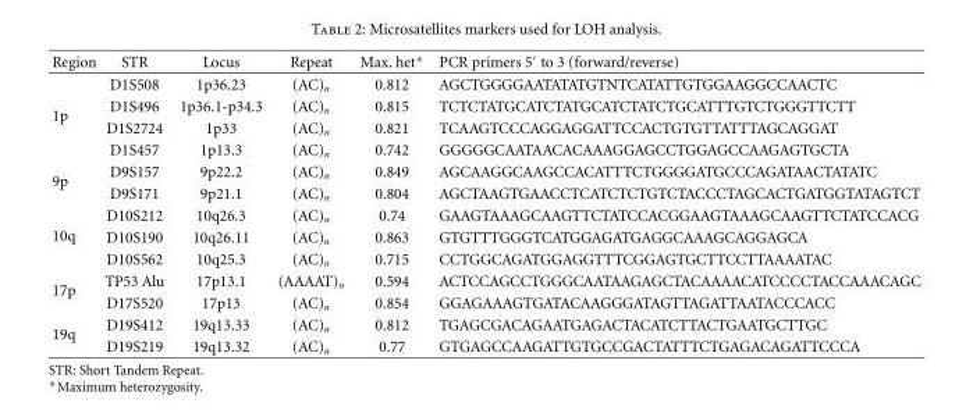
<table><thead><tr><td>Region</td><td>STR</td><td>Locus</td><td>Repeat</td><td>Max. het∗</td><td>PCR primers 5′ to 3 (forward/reverse)</td></tr></thead><tbody><tr><td rowspan="4">1p</td><td>D1S508</td><td>1p36.23</td><td>(AC)n</td><td>0.812</td><td>AGCTGGGGAATATATGTNTCATATTGTGGAAGGCCAACTC</td></tr><tr><td>D1S496</td><td>1p36.1-p34.3</td><td>(AC)n</td><td>0.815</td><td>TCTCTATGCATCTATGCATCTATCTGCATTTGTCTGGGTTCTT</td></tr><tr><td>D1S2724</td><td>1p33</td><td>(AC)n</td><td>0.821</td><td>TCAAGTCCCAGGAGGATTCCACTGTGTTATTTAGCAGGAT</td></tr><tr><td>D1S457</td><td>1p13.3</td><td>(AC)n</td><td>0.742</td><td>GGGGGCAATAACACAAAGGAGCCTGGAGCCAAGAGTGCTA</td></tr><tr><td rowspan="2">9p</td><td>D9S157</td><td>9p22.2</td><td>(AC)n</td><td>0.849</td><td>AGCAAGGCAAGCCACATTTCTGGGGATGCCCAGATAACTATATC</td></tr><tr><td>D9S171</td><td>9p21.1</td><td>(AC)n</td><td>0.804</td><td>AGCTAAGTGAACCTCATCTCTGTCTACCCTAGCACTGATGGTATAGTCT</td></tr><tr><td rowspan="3">10q</td><td>D10S212</td><td>10q26.3</td><td>(AC)n</td><td>0.74</td><td>GAAGTAAAGCAAGTTCTATCCACGGAAGTAAAGCAAGTTCTATCCACG</td></tr><tr><td>D10S190</td><td>10q26.11</td><td>(AC)n</td><td>0.863</td><td>GTGTTTGGGTCATGGAGATGAGGCAAAGCAGGAGCA</td></tr><tr><td>D10S562</td><td>10q25.3</td><td>(AC)n</td><td>0.715</td><td>CCTGGCAGATGGAGGTTTCGGAGTGCTTCCTTAAAATAC</td></tr><tr><td rowspan="2">17p</td><td>TP53 Alu</td><td>17p13.1</td><td>(AAAAT)n</td><td>0.594</td><td>ACTCCAGCCTGGGCAATAAGAGCTACAAAACATCCCCTACCAAACAGC</td></tr><tr><td>D17S520</td><td>17p13</td><td>(AC)n</td><td>0.854</td><td>GGAGAAAGTGATACAAGGGATAGTTAGATTAATACCCACC</td></tr><tr><td rowspan="2">19q</td><td>D19S412</td><td>19q13.33</td><td>(AC)n</td><td>0.812</td><td>TGAGCGACAGAATGAGACTACATCTTACTGAATGCTTGC</td></tr><tr><td>D19S219</td><td>19q13.32</td><td>(AC)n</td><td>0.77</td><td>GTGAGCCAAGATTGTGCCGACTATTTCTGAGACAGATTCCCA</td></tr></tbody></table>